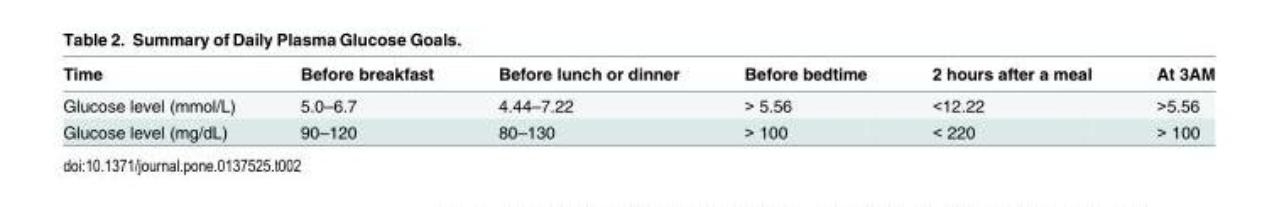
<table><thead><tr><td>Time</td><td>Before breakfast</td><td>Before lunch or dinner</td><td>Before bedtime</td><td>2 hours after a meal</td><td>At 3AM</td></tr></thead><tbody><tr><td>Glucose level (mmol/L)</td><td>5.0–6.7</td><td>4.44–7.22</td><td>&gt; 5.56</td><td>&lt;12.22</td><td>&gt;5.56</td></tr><tr><td>Glucose level (mg/dL)</td><td>90–120</td><td>80–130</td><td>&gt; 100</td><td>&lt; 220</td><td>&gt; 100</td></tr></tbody></table>